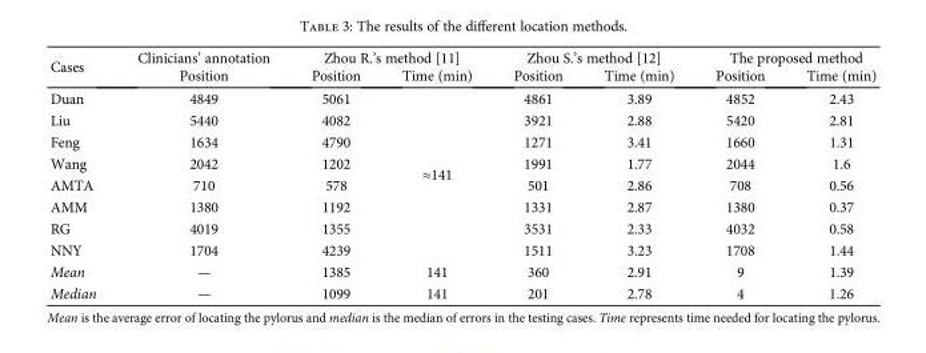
<table><thead><tr><td rowspan="2">Cases</td><td rowspan="2">Clinicians’ annotation Position</td><td colspan="2">Zhou R.’s method [11]</td><td colspan="2">Zhou S.’s method [12]</td><td colspan="2">The proposed method</td></tr><tr><td>Position</td><td>Time (min)</td><td>Position</td><td>Time (min)</td><td>Position</td><td>Time (min)</td></tr></thead><tbody><tr><td>Duan</td><td>4849</td><td>5061</td><td rowspan="8">≈141</td><td>4861</td><td>3.89</td><td>4852</td><td>2.43</td></tr><tr><td>Liu</td><td>5440</td><td>4082</td><td>3921</td><td>2.88</td><td>5420</td><td>2.81</td></tr><tr><td>Feng</td><td>1634</td><td>4790</td><td>1271</td><td>3.41</td><td>1660</td><td>1.31</td></tr><tr><td>Wang</td><td>2042</td><td>1202</td><td>1991</td><td>1.77</td><td>2044</td><td>1.6</td></tr><tr><td>AMTA</td><td>710</td><td>578</td><td>501</td><td>2.86</td><td>708</td><td>0.56</td></tr><tr><td>AMM</td><td>1380</td><td>1192</td><td>1331</td><td>2.87</td><td>1380</td><td>0.37</td></tr><tr><td>RG</td><td>4019</td><td>1355</td><td>3531</td><td>2.33</td><td>4032</td><td>0.58</td></tr><tr><td>NNY</td><td>1704</td><td>4239</td><td>1511</td><td>3.23</td><td>1708</td><td>1.44</td></tr><tr><td>Mean</td><td>—</td><td>1385</td><td>141</td><td>360</td><td>2.91</td><td>9</td><td>1.39</td></tr><tr><td>Median</td><td>—</td><td>1099</td><td>141</td><td>201</td><td>2.78</td><td>4</td><td>1.26</td></tr></tbody></table>